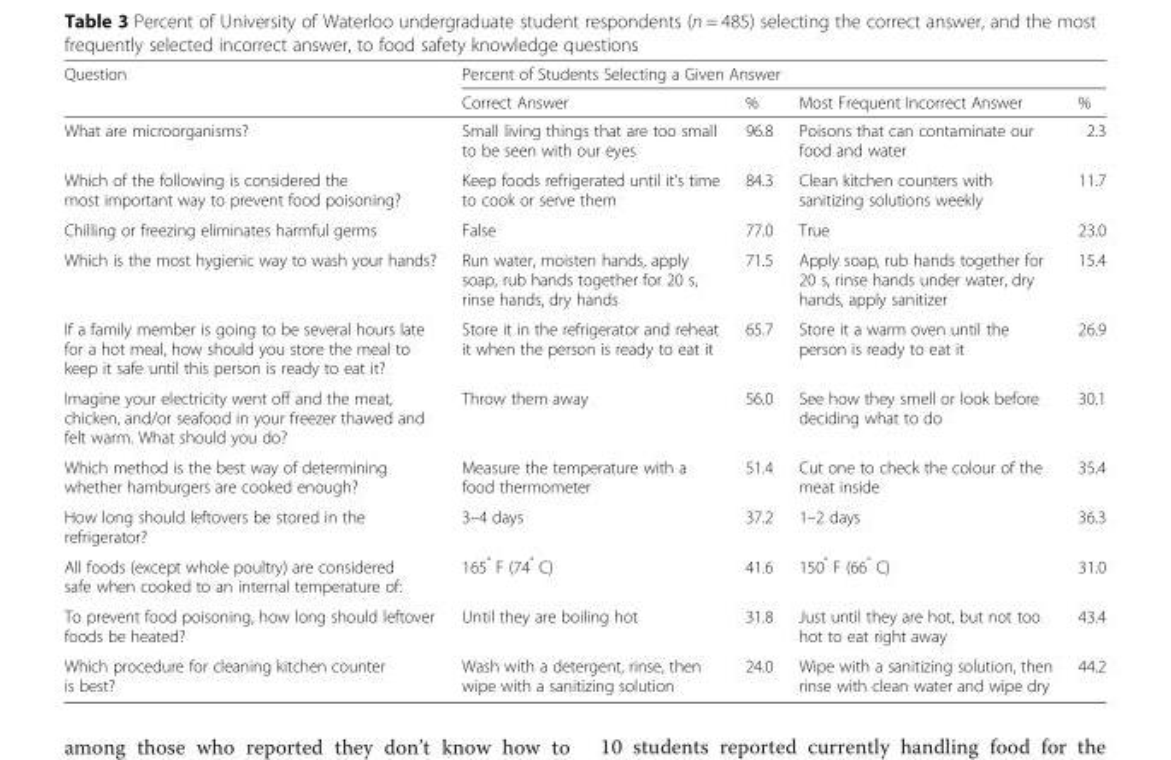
<table><thead><tr><td rowspan="2">Question</td><td colspan="4">Percent of Students Selecting a Given Answer</td></tr><tr><td>Correct Answer</td><td>%</td><td>Most Frequent Incorrect Answer</td><td>%</td></tr></thead><tbody><tr><td>What are microorganisms?</td><td>Small living things that are too small to be seen with our eyes</td><td>96.8</td><td>Poisons that can contaminate our food and water</td><td>2.3</td></tr><tr><td>Which of the following is considered the most important way to prevent food poisoning?</td><td>Keep foods refrigerated until it’s time to cook or serve them</td><td>84.3</td><td>Clean kitchen counters with sanitizing solutions weekly</td><td>11.7</td></tr><tr><td>Chilling or freezing eliminates harmful germs</td><td>False</td><td>77.0</td><td>True</td><td>23.0</td></tr><tr><td>Which is the most hygienic way to wash your hands?</td><td>Run water, moisten hands, apply soap, rub hands together for 20 s, rinse hands, dry hands</td><td>71.5</td><td>Apply soap, rub hands together for 20 s, rinse hands under water, dry hands, apply sanitizer</td><td>15.4</td></tr><tr><td>If a family member is going to be several hours late for a hot meal, how should you store the meal to keep it safe until this person is ready to eat it?</td><td>Store it in the refrigerator and reheat it when the person is ready to eat it</td><td>65.7</td><td>Store it a warm oven until the person is ready to eat it</td><td>26.9</td></tr><tr><td>Imagine your electricity went off and the meat, chicken, and/or seafood in your freezer thawed and felt warm. What should you do?</td><td>Throw them away</td><td>56.0</td><td>See how they smell or look before deciding what to do</td><td>30.1</td></tr><tr><td>Which method is the best way of determining whether hamburgers are cooked enough?</td><td>Measure the temperature with a food thermometer</td><td>51.4</td><td>Cut one to check the colour of the meat inside</td><td>35.4</td></tr><tr><td>How long should leftovers be stored in the refrigerator?</td><td>3–4 days</td><td>37.2</td><td>1–2 days</td><td>36.3</td></tr><tr><td>All foods (except whole poultry) are considered safe when cooked to an internal temperature of:</td><td>165<sup>°</sup> F (74<sup>°</sup> C)</td><td>41.6</td><td>150<sup>°</sup> F (66<sup>°</sup> C)</td><td>31.0</td></tr><tr><td>To prevent food poisoning, how long should leftover foods be heated?</td><td>Until they are boiling hot</td><td>31.8</td><td>Just until they are hot, but not too hot to eat right away</td><td>43.4</td></tr><tr><td>Which procedure for cleaning kitchen counter is best?</td><td>Wash with a detergent, rinse, then wipe with a sanitizing solution</td><td>24.0</td><td>Wipe with a sanitizing solution, then rinse with clean water and wipe dry</td><td>44.2</td></tr></tbody></table>